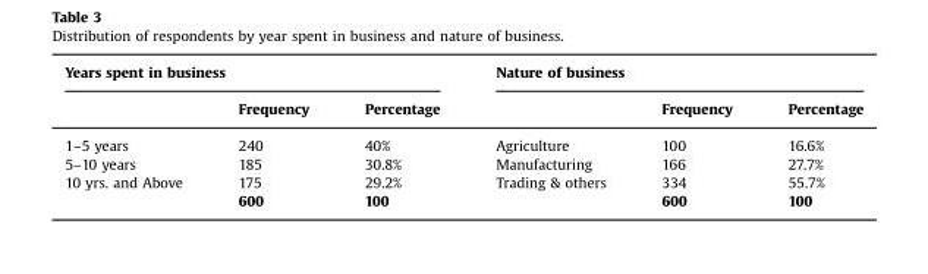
<table><thead><tr><td colspan="3">Years spent in business</td><td colspan="3">Nature of business</td></tr><tr><td></td><td>Frequency</td><td>Percentage</td><td></td><td>Frequency</td><td>Percentage</td></tr></thead><tbody><tr><td>1–5 years</td><td>240</td><td>40%</td><td>Agriculture</td><td>100</td><td>16.6%</td></tr><tr><td>5–10 years</td><td>185</td><td>30.8%</td><td>Manufacturing</td><td>166</td><td>27.7%</td></tr><tr><td rowspan="2">10 yrs. and Above</td><td>175</td><td>29.2%</td><td>Trading &amp; others</td><td>334</td><td>55.7%</td></tr><tr><td>600</td><td>100</td><td></td><td>600</td><td>100</td></tr></tbody></table>